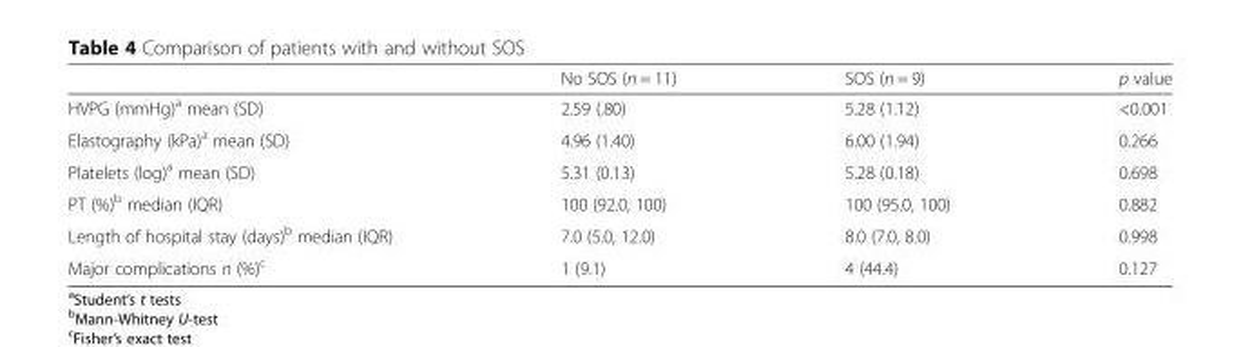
<table><thead><tr><td></td><td>No SOS (n = 11)</td><td>SOS (n = 9)</td><td>p value</td></tr></thead><tbody><tr><td>HVPG (mmHg)<sup>a</sup> mean (SD)</td><td>2.59 (.80)</td><td>5.28 (1.12)</td><td>&lt;0.001</td></tr><tr><td>Elastography (kPa)<sup>a</sup> mean (SD)</td><td>4.96 (1.40)</td><td>6.00 (1.94)</td><td>0.266</td></tr><tr><td>Platelets (log)<sup>a</sup> mean (SD)</td><td>5.31 (0.13)</td><td>5.28 (0.18)</td><td>0.698</td></tr><tr><td>PT (%)<sup>b</sup> median (IQR)</td><td>100 (92.0, 100)</td><td>100 (95.0, 100)</td><td>0.882</td></tr><tr><td>Length of hospital stay (days)<sup>b</sup> median (IQR)</td><td>7.0 (5.0, 12.0)</td><td>8.0 (7.0, 8.0)</td><td>0.998</td></tr><tr><td>Major complications n (%)<sup>c</sup></td><td>1 (9.1)</td><td>4 (44.4)</td><td>0.127</td></tr></tbody></table>